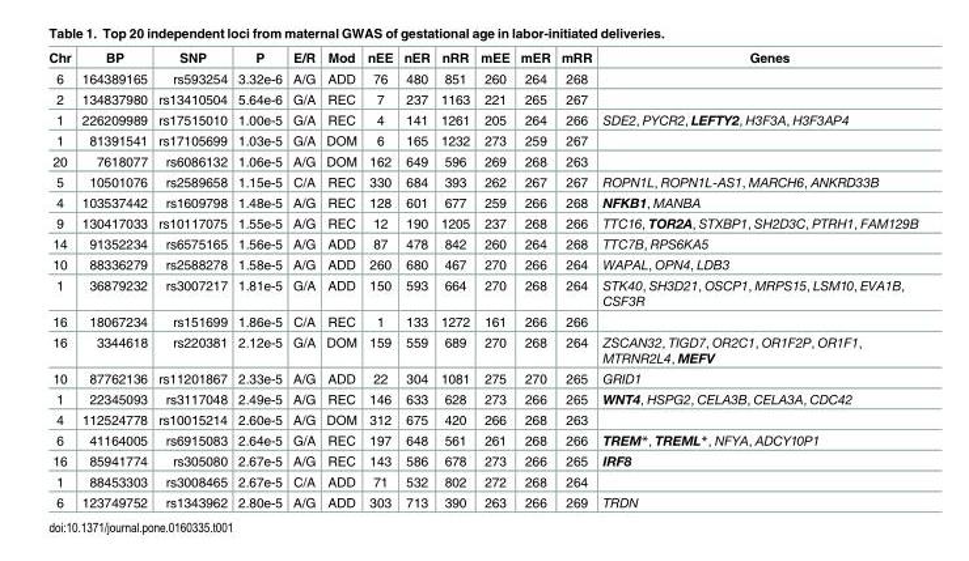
<table><thead><tr><td>Chr</td><td>BP</td><td>SNP</td><td>P</td><td>E/R</td><td>Mod</td><td>nEE</td><td>nER</td><td>nRR</td><td>mEE</td><td>mER</td><td>mRR</td><td>Genes</td></tr></thead><tbody><tr><td>6</td><td>164389165</td><td>rs593254</td><td>3.32e-6</td><td>A/G</td><td>ADD</td><td>76</td><td>480</td><td>851</td><td>260</td><td>264</td><td>268</td><td></td></tr><tr><td>2</td><td>134837980</td><td>rs13410504</td><td>5.64e-6</td><td>G/A</td><td>REC</td><td>7</td><td>237</td><td>1163</td><td>221</td><td>265</td><td>267</td><td></td></tr><tr><td>1</td><td>226209989</td><td>rs17515010</td><td>1.00e-5</td><td>G/A</td><td>REC</td><td>4</td><td>141</td><td>1261</td><td>205</td><td>264</td><td>266</td><td>SDE2, PYCR2, LEFTY2, H3F3A, H3F3AP4</td></tr><tr><td>1</td><td>81391541</td><td>rs17105699</td><td>1.03e-5</td><td>G/A</td><td>DOM</td><td>6</td><td>165</td><td>1232</td><td>273</td><td>259</td><td>267</td><td></td></tr><tr><td>20</td><td>7618077</td><td>rs6086132</td><td>1.06e-5</td><td>A/G</td><td>DOM</td><td>162</td><td>649</td><td>596</td><td>269</td><td>268</td><td>263</td><td></td></tr><tr><td>5</td><td>10501076</td><td>rs2589658</td><td>1.15e-5</td><td>C/A</td><td>REC</td><td>330</td><td>684</td><td>393</td><td>262</td><td>267</td><td>267</td><td>ROPN1L, ROPN1L-AS1, MARCH6, ANKRD33B</td></tr><tr><td>4</td><td>103537442</td><td>rs1609798</td><td>1.48e-5</td><td>A/G</td><td>REC</td><td>128</td><td>601</td><td>677</td><td>259</td><td>266</td><td>268</td><td>NFKB1, MANBA</td></tr><tr><td>9</td><td>130417033</td><td>rs10117075</td><td>1.55e-5</td><td>A/G</td><td>REC</td><td>12</td><td>190</td><td>1205</td><td>237</td><td>268</td><td>266</td><td>TTC16, TOR2A, STXBP1, SH2D3C, PTRH1, FAM129B</td></tr><tr><td>14</td><td>91352234</td><td>rs6575165</td><td>1.56e-5</td><td>A/G</td><td>ADD</td><td>87</td><td>478</td><td>842</td><td>260</td><td>264</td><td>268</td><td>TTC7B, RPS6KA5</td></tr><tr><td>10</td><td>88336279</td><td>rs2588278</td><td>1.58e-5</td><td>A/G</td><td>ADD</td><td>260</td><td>680</td><td>467</td><td>270</td><td>266</td><td>264</td><td>WAPAL, OPN4, LDB3</td></tr><tr><td>1</td><td>36879232</td><td>rs3007217</td><td>1.81e-5</td><td>G/A</td><td>ADD</td><td>150</td><td>593</td><td>664</td><td>270</td><td>268</td><td>264</td><td>STK40, SH3D21, OSCP1, MRPS15, LSM10, EVA1B, CSF3R</td></tr><tr><td>16</td><td>18067234</td><td>rs151699</td><td>1.86e-5</td><td>C/A</td><td>REC</td><td>1</td><td>133</td><td>1272</td><td>161</td><td>266</td><td>266</td><td></td></tr><tr><td>16</td><td>3344618</td><td>rs220381</td><td>2.12e-5</td><td>G/A</td><td>DOM</td><td>159</td><td>559</td><td>689</td><td>270</td><td>268</td><td>264</td><td>ZSCAN32, TIGD7, OR2C1, OR1F2P, OR1F1, MTRNR2L4, MEFV</td></tr><tr><td>10</td><td>87762136</td><td>rs11201867</td><td>2.33e-5</td><td>A/G</td><td>ADD</td><td>22</td><td>304</td><td>1081</td><td>275</td><td>270</td><td>265</td><td>GRID1</td></tr><tr><td>1</td><td>22345093</td><td>rs3117048</td><td>2.49e-5</td><td>A/G</td><td>REC</td><td>146</td><td>633</td><td>628</td><td>273</td><td>266</td><td>265</td><td>WNT4, HSPG2, CELA3B, CELA3A, CDC42</td></tr><tr><td>4</td><td>112524778</td><td>rs10015214</td><td>2.60e-5</td><td>A/G</td><td>DOM</td><td>312</td><td>675</td><td>420</td><td>266</td><td>268</td><td>263</td><td></td></tr><tr><td>6</td><td>41164005</td><td>rs6915083</td><td>2.64e-5</td><td>G/A</td><td>REC</td><td>197</td><td>648</td><td>561</td><td>261</td><td>268</td><td>266</td><td>TREM*, TREML*, NFYA, ADCY10P1</td></tr><tr><td>16</td><td>85941774</td><td>rs305080</td><td>2.67e-5</td><td>A/G</td><td>REC</td><td>143</td><td>586</td><td>678</td><td>273</td><td>266</td><td>265</td><td>IRF8</td></tr><tr><td>1</td><td>88453303</td><td>rs3008465</td><td>2.67e-5</td><td>C/A</td><td>ADD</td><td>71</td><td>532</td><td>802</td><td>272</td><td>268</td><td>264</td><td></td></tr><tr><td>6</td><td>123749752</td><td>rs1343962</td><td>2.80e-5</td><td>A/G</td><td>ADD</td><td>303</td><td>713</td><td>390</td><td>263</td><td>266</td><td>269</td><td>TRDN</td></tr></tbody></table>